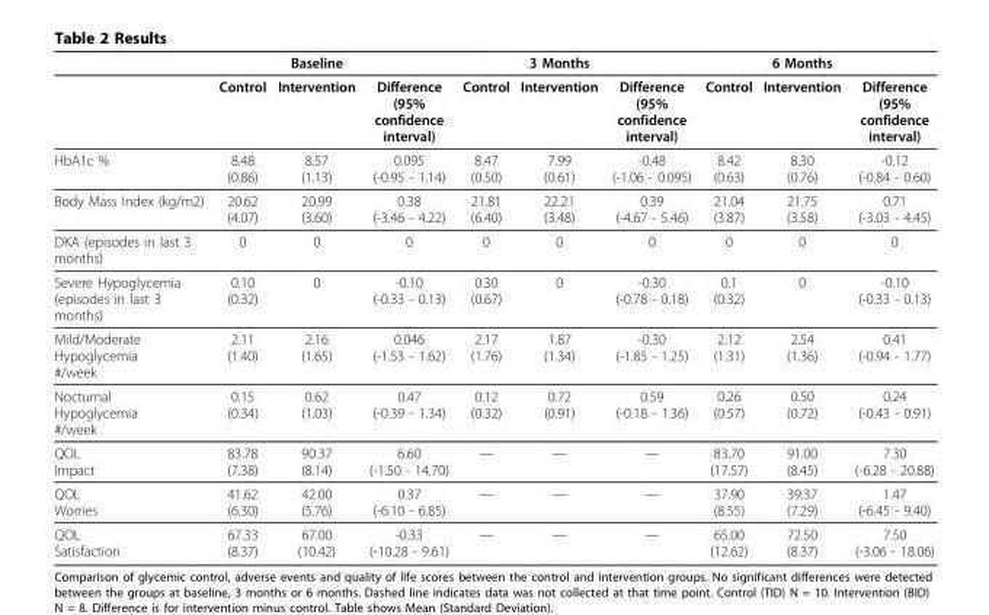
<table><thead><tr><td></td><td></td><td>Baseline</td><td></td><td></td><td>3 Months</td><td></td><td></td><td>6 Months</td><td></td></tr></thead><tbody><tr><td></td><td>Control</td><td>Intervention</td><td>Difference (95% confidence interval)</td><td>Control</td><td>Intervention</td><td>Difference (95% confidence interval)</td><td>Control</td><td>Intervention</td><td>Difference (95% confidence interval)</td></tr><tr><td>HbA1c %</td><td>8.48 (0.86)</td><td>8.57 (1.13)</td><td>0.095 (-0.95 - 1.14)</td><td>8.47 (0.50)</td><td>7.99 (0.61)</td><td>-0.48 (-1.06 - 0.095)</td><td>8.42 (0.63)</td><td>8.30 (0.76)</td><td>-0.12 (-0.84 - 0.60)</td></tr><tr><td>Body Mass Index (kg/m2)</td><td>20.62 (4.07)</td><td>20.99 (3.60)</td><td>0.38 (-3.46 - 4.22)</td><td>21.81 (6.40)</td><td>22.21 (3.48)</td><td>0.39 (-4.67 - 5.46)</td><td>21.04 (3.87)</td><td>21.75 (3.58)</td><td>0.71 (-3.03 - 4.45)</td></tr><tr><td>DKA (episodes in last 3 months)</td><td>0</td><td>0</td><td>0</td><td>0</td><td>0</td><td>0</td><td>0</td><td>0</td><td>0</td></tr><tr><td>Severe Hypoglycemia (episodes in last 3 months)</td><td>0.10 (0.32)</td><td>0</td><td>-0.10 (-0.33 - 0.13)</td><td>0.30 (0.67)</td><td>0</td><td>-0.30 (-0.78 - 0.18)</td><td>0.1 (0.32)</td><td>0</td><td>-0.10 (-0.33 - 0.13)</td></tr><tr><td>Mild/Moderate Hypoglycemia #/week</td><td>2.11 (1.40)</td><td>2.16 (1.65)</td><td>0.046 (-1.53 - 1.62)</td><td>2.17 (1.76)</td><td>1.87 (1.34)</td><td>-0.30 (-1.85 - 1.25)</td><td>2.12 (1.31)</td><td>2.54 (1.36)</td><td>0.41 (-0.94 - 1.77)</td></tr><tr><td>Nocturnal Hypoglycemia #/week</td><td>0.15 (0.34)</td><td>0.62 (1.03)</td><td>0.47 (-0.39 - 1.34)</td><td>0.12 (0.32)</td><td>0.72 (0.91)</td><td>0.59 (-0.18 - 1.36)</td><td>0.26 (0.57)</td><td>0.50 (0.72)</td><td>0.24 (-0.43 - 0.91)</td></tr><tr><td>QOL Impact</td><td>83.78 (7.38)</td><td>90.37 (8.14)</td><td>6.60 (-1.50 - 14.70)</td><td>—</td><td>—</td><td>—</td><td>83.70 (17.57)</td><td>91.00 (8.45)</td><td>7.30 (-6.28 - 20.88)</td></tr><tr><td>QOL Worries</td><td>41.62 (6.30)</td><td>42.00 (5.76)</td><td>0.37 (-6.10 - 6.85)</td><td>—</td><td>—</td><td>—</td><td>37.90 (8.55)</td><td>39.37 (7.29)</td><td>1.47 (-6.45 - 9.40)</td></tr><tr><td>QOL Satisfaction</td><td>67.33 (8.37)</td><td>67.00 (10.42)</td><td>-0.33 (-10.28 - 9.61)</td><td>—</td><td>—</td><td>—</td><td>65.00 (12.62)</td><td>72.50 (8.37)</td><td>7.50 (-3.06 - 18.06)</td></tr></tbody></table>